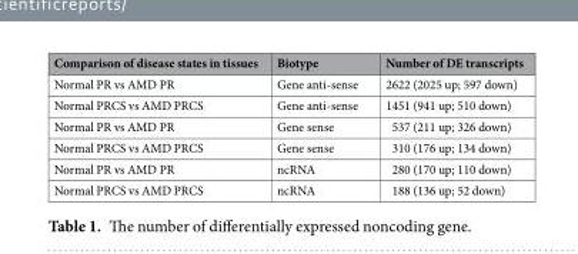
<table><thead><tr><td>Comparison of disease states in tissues</td><td>Biotype</td><td>Number of DE transcripts</td></tr></thead><tbody><tr><td>Normal PR vs AMD PR</td><td>Gene anti-sense</td><td>2622 (2025 up; 597 down)</td></tr><tr><td>Normal PRCS vs AMD PRCS</td><td>Gene anti-sense</td><td>1451 (941 up; 510 down)</td></tr><tr><td>Normal PR vs AMD PR</td><td>Gene sense</td><td>537 (211 up; 326 down)</td></tr><tr><td>Normal PRCS vs AMD PRCS</td><td>Gene sense</td><td>310 (176 up; 134 down)</td></tr><tr><td>Normal PR vs AMD PR</td><td>ncRNA</td><td>280 (170 up; 110 down)</td></tr><tr><td>Normal PRCS vs AMD PRCS</td><td>ncRNA</td><td>188 (136 up; 52 down)</td></tr></tbody></table>